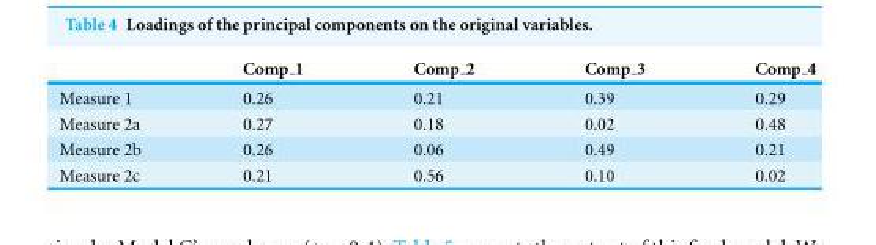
<table><thead><tr><td></td><td>Comp 1</td><td>Comp 2</td><td>Comp 3</td><td>Comp 4</td></tr></thead><tbody><tr><td>Measure 1</td><td>0.26</td><td>0.21</td><td>0.39</td><td>0.29</td></tr><tr><td>Measure 2a</td><td>0.27</td><td>0.18</td><td>0.02</td><td>0.48</td></tr><tr><td>Measure 2b</td><td>0.26</td><td>0.06</td><td>0.49</td><td>0.21</td></tr><tr><td>Measure 2c</td><td>0.21</td><td>0.56</td><td>0.10</td><td>0.02</td></tr></tbody></table>